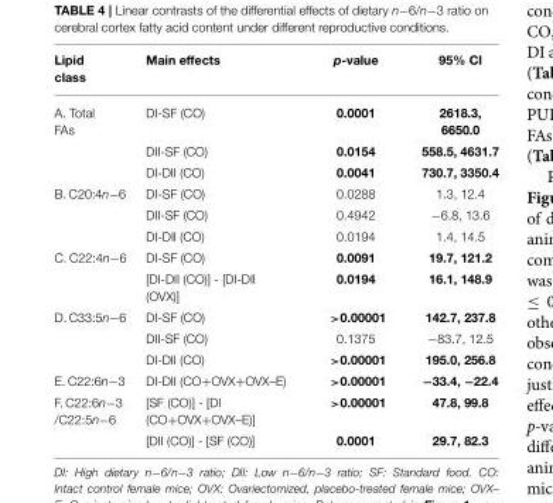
<table><thead><tr><td>Lipid class</td><td>Main effects</td><td>p-value</td><td>95% CI</td></tr></thead><tbody><tr><td rowspan="3">A. Total FAs</td><td>DI-SF (CO)</td><td>0.0001</td><td>2618.3, 6650.0</td></tr><tr><td>DII-SF (CO)</td><td>0.0154</td><td>558.5, 4631.7</td></tr><tr><td>DI-DII (CO)</td><td>0.0041</td><td>730.7, 3350.4</td></tr><tr><td rowspan="3">B. C20:4n−6</td><td>DI-SF (CO)</td><td>0.0288</td><td>1.3, 12.4</td></tr><tr><td>DII-SF (CO)</td><td>0.4942</td><td>−6.8, 13.6</td></tr><tr><td>DI-DII (CO)</td><td>0.0194</td><td>1.4, 14.5</td></tr><tr><td rowspan="2">C. C22:4n−6</td><td>DI-SF (CO)</td><td>0.0091</td><td>19.7, 121.2</td></tr><tr><td>[DI-DII (CO)] - [DI-DII (OVX)]</td><td>0.0194</td><td>16.1, 148.9</td></tr><tr><td rowspan="3">D. C33:5n−6</td><td>DI-SF (CO)</td><td>&gt;0.00001</td><td>142.7, 237.8</td></tr><tr><td>DII-SF (CO)</td><td>0.1375</td><td>−83.7, 12.5</td></tr><tr><td>DI-DII (CO)</td><td>&gt;0.00001</td><td>195.0, 256.8</td></tr><tr><td>E. C22:6n−3</td><td>DI-DII (CO+OVX+OVX–E)</td><td>&gt;0.00001</td><td>−33.4, −22.4</td></tr><tr><td rowspan="2">F. C22:6n−3 /C22:5n−6</td><td>[SF (CO)] - [DI (CO+OVX+OVX–E)]</td><td>&gt;0.00001</td><td>47.8, 99.8</td></tr><tr><td>[DII (CO)] - [SF (CO)]</td><td>0.0001</td><td>29.7, 82.3</td></tr></tbody></table>